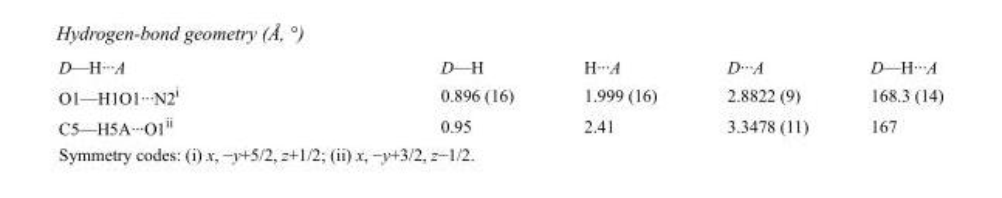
<table><tbody><tr><td>D—H···A</td><td>D—H</td><td>H···A</td><td>D···A</td><td>D—H···A</td></tr><tr><td>O1—H1O1···N2<sup>i</sup></td><td>0.896 (16)</td><td>1.999 (16)</td><td>2.8822 (9)</td><td>168.3 (14)</td></tr><tr><td>C5—H5A···O1<sup>ii</sup></td><td>0.95</td><td>2.41</td><td>3.3478 (11)</td><td>167</td></tr></tbody></table>